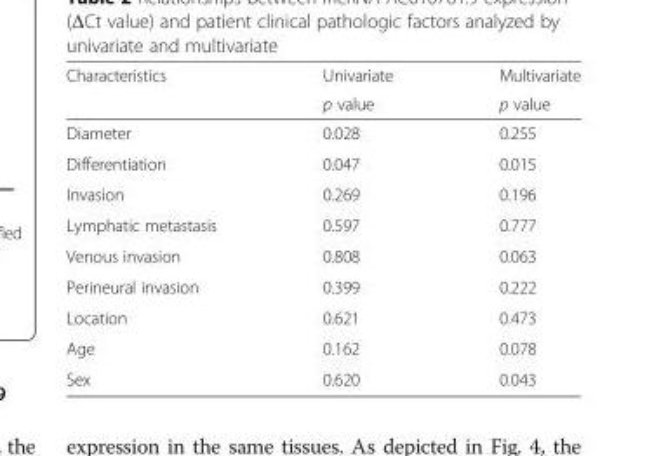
<table><thead><tr><td rowspan="2">Characteristics</td><td rowspan="2">Univariate p value</td><td rowspan="2">Multivariate p value</td></tr><tr></tr></thead><tbody><tr><td>Diameter</td><td>0.028</td><td>0.255</td></tr><tr><td>Differentiation</td><td>0.047</td><td>0.015</td></tr><tr><td>Invasion</td><td>0.269</td><td>0.196</td></tr><tr><td>Lymphatic metastasis</td><td>0.597</td><td>0.777</td></tr><tr><td>Venous invasion</td><td>0.808</td><td>0.063</td></tr><tr><td>Perineural invasion</td><td>0.399</td><td>0.222</td></tr><tr><td>Location</td><td>0.621</td><td>0.473</td></tr><tr><td>Age</td><td>0.162</td><td>0.078</td></tr><tr><td>Sex</td><td>0.620</td><td>0.043</td></tr></tbody></table>